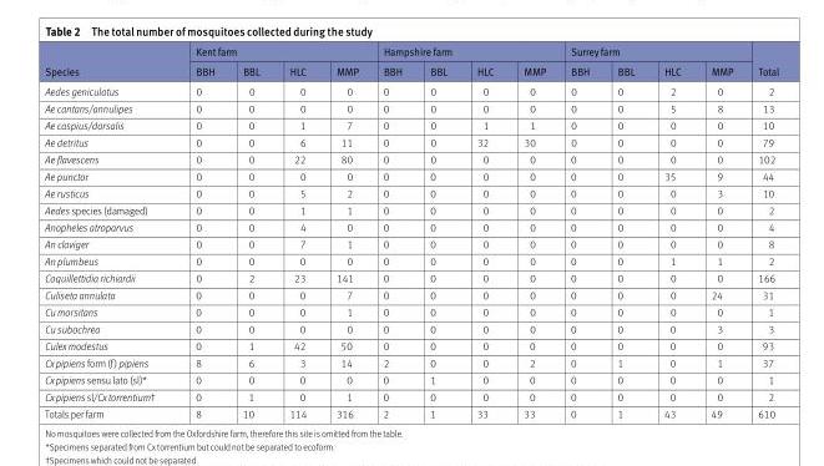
<table><thead><tr><td rowspan="2">Species</td><td colspan="4">Kent farm</td><td colspan="4">Hampshire farm</td><td colspan="4">Surrey farm</td><td rowspan="2">Total</td></tr><tr><td>BBH</td><td>BBL</td><td>HLC</td><td>MMP</td><td>BBH</td><td>BBL</td><td>HLC</td><td>MMP</td><td>BBH</td><td>BBL</td><td>HLC</td><td>MMP</td></tr></thead><tbody><tr><td>Aedes geniculatus</td><td>0</td><td>0</td><td>0</td><td>0</td><td>0</td><td>0</td><td>0</td><td>0</td><td>0</td><td>0</td><td>2</td><td>0</td><td>2</td></tr><tr><td>Ae cantans/annulipes</td><td>0</td><td>0</td><td>0</td><td>0</td><td>0</td><td>0</td><td>0</td><td>0</td><td>0</td><td>0</td><td>5</td><td>8</td><td>13</td></tr><tr><td>Ae caspius/dorsalis</td><td>0</td><td>0</td><td>1</td><td>7</td><td>0</td><td>0</td><td>1</td><td>1</td><td>0</td><td>0</td><td>0</td><td>0</td><td>10</td></tr><tr><td>Ae detritus</td><td>0</td><td>0</td><td>6</td><td>11</td><td>0</td><td>0</td><td>32</td><td>30</td><td>0</td><td>0</td><td>0</td><td>0</td><td>79</td></tr><tr><td>Ae flavescens</td><td>0</td><td>0</td><td>22</td><td>80</td><td>0</td><td>0</td><td>0</td><td>0</td><td>0</td><td>0</td><td>0</td><td>0</td><td>102</td></tr><tr><td>Ae punctor</td><td>0</td><td>0</td><td>0</td><td>0</td><td>0</td><td>0</td><td>0</td><td>0</td><td>0</td><td>0</td><td>35</td><td>9</td><td>44</td></tr><tr><td>Ae rusticus</td><td>0</td><td>0</td><td>5</td><td>2</td><td>0</td><td>0</td><td>0</td><td>0</td><td>0</td><td>0</td><td>0</td><td>3</td><td>10</td></tr><tr><td>Aedes species (damaged)</td><td>0</td><td>0</td><td>1</td><td>1</td><td>0</td><td>0</td><td>0</td><td>0</td><td>0</td><td>0</td><td>0</td><td>0</td><td>2</td></tr><tr><td>Anopheles atroparvus</td><td>0</td><td>0</td><td>4</td><td>0</td><td>0</td><td>0</td><td>0</td><td>0</td><td>0</td><td>0</td><td>0</td><td>0</td><td>4</td></tr><tr><td>An claviger</td><td>0</td><td>0</td><td>7</td><td>1</td><td>0</td><td>0</td><td>0</td><td>0</td><td>0</td><td>0</td><td>0</td><td>0</td><td>8</td></tr><tr><td>An plumbeus</td><td>0</td><td>0</td><td>0</td><td>0</td><td>0</td><td>0</td><td>0</td><td>0</td><td>0</td><td>0</td><td>1</td><td>1</td><td>2</td></tr><tr><td>Coquillettidia richiardii</td><td>0</td><td>2</td><td>23</td><td>141</td><td>0</td><td>0</td><td>0</td><td>0</td><td>0</td><td>0</td><td>0</td><td>0</td><td>166</td></tr><tr><td>Culiseta annulata</td><td>0</td><td>0</td><td>0</td><td>7</td><td>0</td><td>0</td><td>0</td><td>0</td><td>0</td><td>0</td><td>0</td><td>24</td><td>31</td></tr><tr><td>Cu morsitans</td><td>0</td><td>0</td><td>0</td><td>1</td><td>0</td><td>0</td><td>0</td><td>0</td><td>0</td><td>0</td><td>0</td><td>0</td><td>1</td></tr><tr><td>Cu subochrea</td><td>0</td><td>0</td><td>0</td><td>0</td><td>0</td><td>0</td><td>0</td><td>0</td><td>0</td><td>0</td><td>0</td><td>3</td><td>3</td></tr><tr><td>Culex modestus</td><td>0</td><td>1</td><td>42</td><td>50</td><td>0</td><td>0</td><td>0</td><td>0</td><td>0</td><td>0</td><td>0</td><td>0</td><td>93</td></tr><tr><td>Cx pipiens form (f) pipiens</td><td>8</td><td>6</td><td>3</td><td>14</td><td>2</td><td>0</td><td>0</td><td>2</td><td>0</td><td>1</td><td>0</td><td>1</td><td>37</td></tr><tr><td>Cx pipiens sensu lato (sl)*</td><td>0</td><td>0</td><td>0</td><td>0</td><td>0</td><td>1</td><td>0</td><td>0</td><td>0</td><td>0</td><td>0</td><td>0</td><td>1</td></tr><tr><td>Cx pipiens sl/Cx torrentium†</td><td>0</td><td>1</td><td>0</td><td>1</td><td>0</td><td>0</td><td>0</td><td>0</td><td>0</td><td>0</td><td>0</td><td>0</td><td>2</td></tr><tr><td>Totals per farm</td><td>8</td><td>10</td><td>114</td><td>316</td><td>2</td><td>1</td><td>33</td><td>33</td><td>0</td><td>1</td><td>43</td><td>49</td><td>610</td></tr></tbody></table>